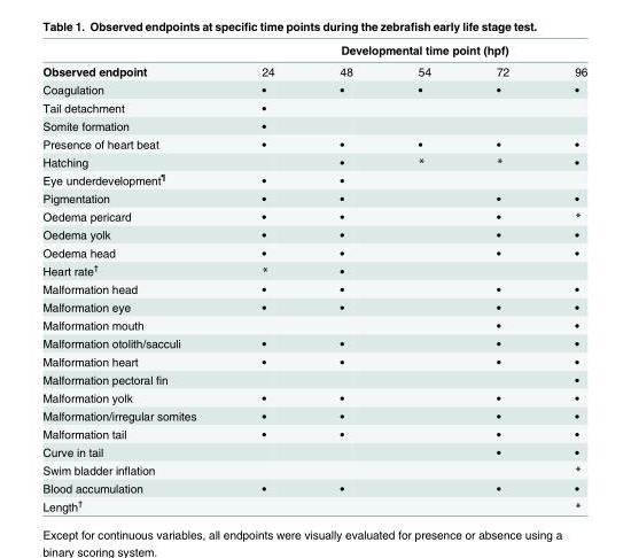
<table><thead><tr><td rowspan="2">Observed endpoint</td><td colspan="5">Developmental time point (hpf)</td></tr><tr><td>24</td><td>48</td><td>54</td><td>72</td><td>96</td></tr></thead><tbody><tr><td>Coagulation</td><td>•</td><td>•</td><td>•</td><td>•</td><td>•</td></tr><tr><td>Tail detachment</td><td>•</td><td></td><td></td><td></td><td></td></tr><tr><td>Somite formation</td><td>•</td><td></td><td></td><td></td><td></td></tr><tr><td>Presence of heart beat</td><td>•</td><td>•</td><td>•</td><td>•</td><td>•</td></tr><tr><td>Hatching</td><td></td><td>•</td><td>*</td><td>*</td><td>•</td></tr><tr><td>Eye underdevelopment<sup>¶</sup></td><td>•</td><td>•</td><td></td><td></td><td></td></tr><tr><td>Pigmentation</td><td>•</td><td>•</td><td></td><td>•</td><td>•</td></tr><tr><td>Oedema pericard</td><td>•</td><td>•</td><td></td><td>•</td><td>*</td></tr><tr><td>Oedema yolk</td><td>•</td><td>•</td><td></td><td>•</td><td>•</td></tr><tr><td>Oedema head</td><td>•</td><td>•</td><td></td><td>•</td><td>•</td></tr><tr><td>Heart rate<sup>†</sup></td><td>*</td><td>•</td><td></td><td></td><td></td></tr><tr><td>Malformation head</td><td>•</td><td>•</td><td></td><td>•</td><td>•</td></tr><tr><td>Malformation eye</td><td>•</td><td>•</td><td></td><td>•</td><td>•</td></tr><tr><td>Malformation mouth</td><td></td><td></td><td></td><td>•</td><td>•</td></tr><tr><td>Malformation otolith/sacculi</td><td>•</td><td>•</td><td></td><td>•</td><td>•</td></tr><tr><td>Malformation heart</td><td>•</td><td>•</td><td></td><td>•</td><td>•</td></tr><tr><td>Malformation pectoral fin</td><td></td><td></td><td></td><td></td><td>•</td></tr><tr><td>Malformation yolk</td><td>•</td><td>•</td><td></td><td>•</td><td>•</td></tr><tr><td>Malformation/irregular somites</td><td>•</td><td>•</td><td></td><td>•</td><td>•</td></tr><tr><td>Malformation tail</td><td>•</td><td>•</td><td></td><td>•</td><td>•</td></tr><tr><td>Curve in tail</td><td></td><td></td><td></td><td>•</td><td>•</td></tr><tr><td>Swim bladder inflation</td><td></td><td></td><td></td><td></td><td>*</td></tr><tr><td>Blood accumulation</td><td>•</td><td>•</td><td></td><td>•</td><td>•</td></tr><tr><td>Length<sup>†</sup></td><td></td><td></td><td></td><td></td><td>*</td></tr></tbody></table>